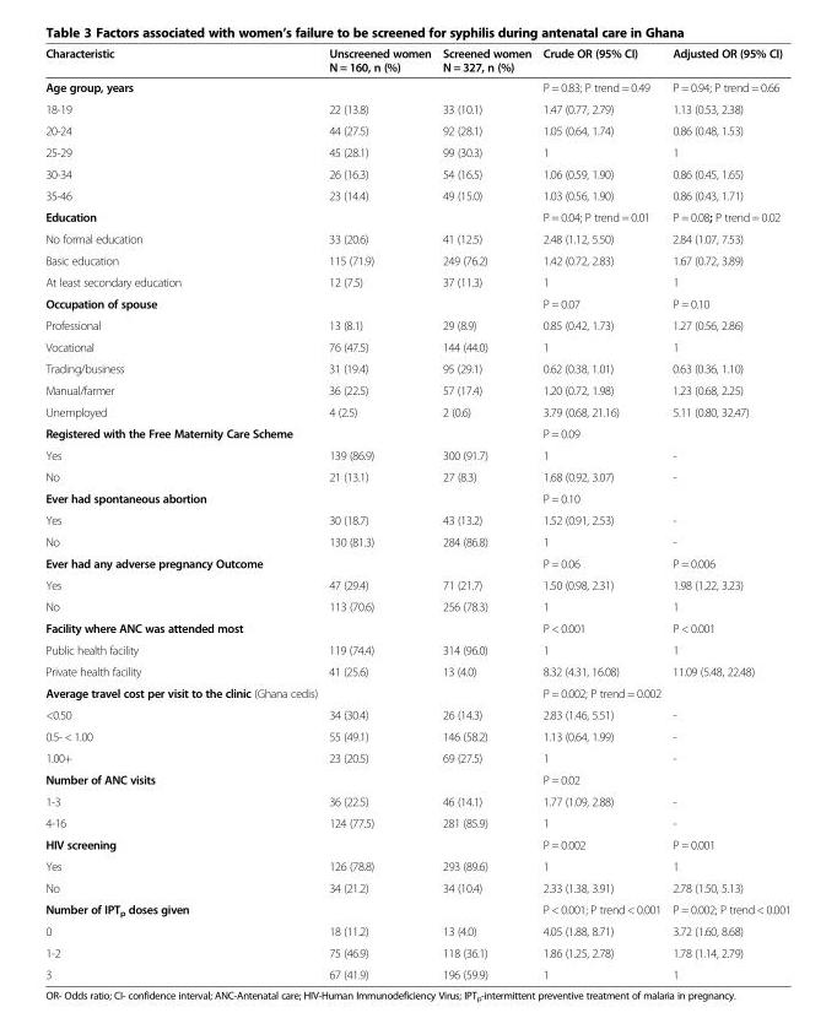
<table><thead><tr><td>Characteristic</td><td>Unscreened women N = 160, n (%)</td><td>Screened women N = 327, n (%)</td><td>Crude OR (95% CI)</td><td>Adjusted OR (95% CI)</td></tr></thead><tbody><tr><td>Age group, years</td><td></td><td></td><td>P = 0.83; P trend = 0.49</td><td>P = 0.94; P trend = 0.66</td></tr><tr><td>18-19</td><td>22 (13.8)</td><td>33 (10.1)</td><td>1.47 (0.77, 2.79)</td><td>1.13 (0.53, 2.38)</td></tr><tr><td>20-24</td><td>44 (27.5)</td><td>92 (28.1)</td><td>1.05 (0.64, 1.74)</td><td>0.86 (0.48, 1.53)</td></tr><tr><td>25-29</td><td>45 (28.1)</td><td>99 (30.3)</td><td>1</td><td>1</td></tr><tr><td>30-34</td><td>26 (16.3)</td><td>54 (16.5)</td><td>1.06 (0.59, 1.90)</td><td>0.86 (0.45, 1.65)</td></tr><tr><td>35-46</td><td>23 (14.4)</td><td>49 (15.0)</td><td>1.03 (0.56, 1.90)</td><td>0.86 (0.43, 1.71)</td></tr><tr><td>Education</td><td></td><td></td><td>P = 0.04; P trend = 0.01</td><td>P = 0.08; P trend = 0.02</td></tr><tr><td>No formal education</td><td>33 (20.6)</td><td>41 (12.5)</td><td>2.48 (1.12, 5.50)</td><td>2.84 (1.07, 7.53)</td></tr><tr><td>Basic education</td><td>115 (71.9)</td><td>249 (76.2)</td><td>1.42 (0.72, 2.83)</td><td>1.67 (0.72, 3.89)</td></tr><tr><td>At least secondary education</td><td>12 (7.5)</td><td>37 (11.3)</td><td>1</td><td>1</td></tr><tr><td>Occupation of spouse</td><td></td><td></td><td>P = 0.07</td><td>P = 0.10</td></tr><tr><td>Professional</td><td>13 (8.1)</td><td>29 (8.9)</td><td>0.85 (0.42, 1.73)</td><td>1.27 (0.56, 2.86)</td></tr><tr><td>Vocational</td><td>76 (47.5)</td><td>144 (44.0)</td><td>1</td><td>1</td></tr><tr><td>Trading/business</td><td>31 (19.4)</td><td>95 (29.1)</td><td>0.62 (0.38, 1.01)</td><td>0.63 (0.36, 1.10)</td></tr><tr><td>Manual/farmer</td><td>36 (22.5)</td><td>57 (17.4)</td><td>1.20 (0.72, 1.98)</td><td>1.23 (0.68, 2.25)</td></tr><tr><td>Unemployed</td><td>4 (2.5)</td><td>2 (0.6)</td><td>3.79 (0.68, 21.16)</td><td>5.11 (0.80, 32.47)</td></tr><tr><td>Registered with the Free Maternity Care Scheme</td><td></td><td></td><td>P = 0.09</td><td></td></tr><tr><td>Yes</td><td>139 (86.9)</td><td>300 (91.7)</td><td>1</td><td>-</td></tr><tr><td>No</td><td>21 (13.1)</td><td>27 (8.3)</td><td>1.68 (0.92, 3.07)</td><td>-</td></tr><tr><td>Ever had spontaneous abortion</td><td></td><td></td><td>P = 0.10</td><td></td></tr><tr><td>Yes</td><td>30 (18.7)</td><td>43 (13.2)</td><td>1.52 (0.91, 2.53)</td><td>-</td></tr><tr><td>No</td><td>130 (81.3)</td><td>284 (86.8)</td><td>1</td><td>-</td></tr><tr><td>Ever had any adverse pregnancy Outcome</td><td></td><td></td><td>P = 0.06</td><td>P = 0.006</td></tr><tr><td>Yes</td><td>47 (29.4)</td><td>71 (21.7)</td><td>1.50 (0.98, 2.31)</td><td>1.98 (1.22, 3.23)</td></tr><tr><td>No</td><td>113 (70.6)</td><td>256 (78.3)</td><td>1</td><td>1</td></tr><tr><td>Facility where ANC was attended most</td><td></td><td></td><td>P &lt; 0.001</td><td>P &lt; 0.001</td></tr><tr><td>Public health facility</td><td>119 (74.4)</td><td>314 (96.0)</td><td>1</td><td>1</td></tr><tr><td>Private health facility</td><td>41 (25.6)</td><td>13 (4.0)</td><td>8.32 (4.31, 16.08)</td><td>11.09 (5.48, 22.48)</td></tr><tr><td>Average travel cost per visit to the clinic (Ghana cedis)</td><td></td><td></td><td>P = 0.002; P trend = 0.002</td><td></td></tr><tr><td>&lt;0.50</td><td>34 (30.4)</td><td>26 (14.3)</td><td>2.83 (1.46, 5.51)</td><td>-</td></tr><tr><td>0.5- &lt; 1.00</td><td>55 (49.1)</td><td>146 (58.2)</td><td>1.13 (0.64, 1.99)</td><td>-</td></tr><tr><td>1.00+</td><td>23 (20.5)</td><td>69 (27.5)</td><td>1</td><td>-</td></tr><tr><td>Number of ANC visits</td><td></td><td></td><td>P = 0.02</td><td></td></tr><tr><td>1-3</td><td>36 (22.5)</td><td>46 (14.1)</td><td>1.77 (1.09, 2.88)</td><td>-</td></tr><tr><td>4-16</td><td>124 (77.5)</td><td>281 (85.9)</td><td>1</td><td>-</td></tr><tr><td>HIV screening</td><td></td><td></td><td>P = 0.002</td><td>P = 0.001</td></tr><tr><td>Yes</td><td>126 (78.8)</td><td>293 (89.6)</td><td>1</td><td>1</td></tr><tr><td>No</td><td>34 (21.2)</td><td>34 (10.4)</td><td>2.33 (1.38, 3.91)</td><td>2.78 (1.50, 5.13)</td></tr><tr><td>Number of IPT<sub>p</sub> doses given</td><td></td><td></td><td>P &lt; 0.001; P trend &lt; 0.001</td><td>P = 0.002; P trend &lt; 0.001</td></tr><tr><td>0</td><td>18 (11.2)</td><td>13 (4.0)</td><td>4.05 (1.88, 8.71)</td><td>3.72 (1.60, 8.68)</td></tr><tr><td>1-2</td><td>75 (46.9)</td><td>118 (36.1)</td><td>1.86 (1.25, 2.78)</td><td>1.78 (1.14, 2.79)</td></tr><tr><td>3</td><td>67 (41.9)</td><td>196 (59.9)</td><td>1</td><td>1</td></tr></tbody></table>